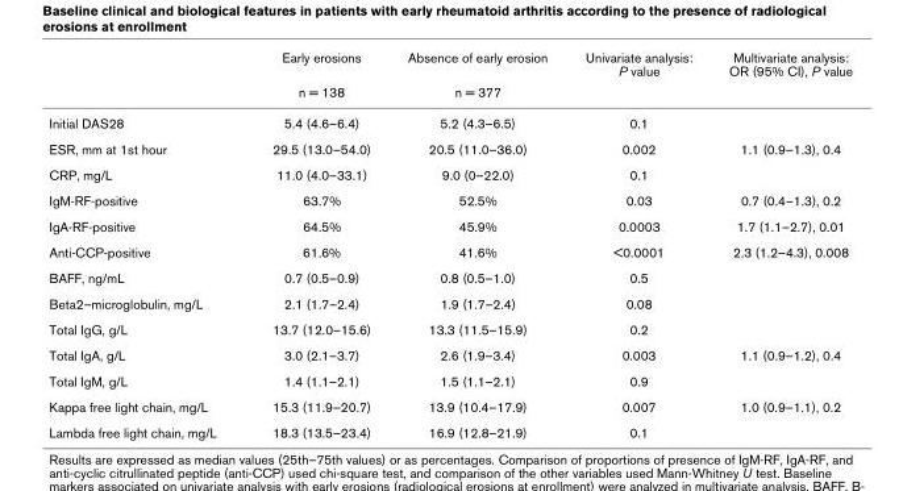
<table><thead><tr><td rowspan="2"></td><td rowspan="2">Early erosions n = 138</td><td rowspan="2">Absence of early erosion n = 377</td><td rowspan="2">Univariate analysis: P value</td><td rowspan="2">Multivariate analysis: OR (95% CI), P value</td></tr><tr></tr></thead><tbody><tr><td>Initial DAS28</td><td>5.4 (4.6–6.4)</td><td>5.2 (4.3–6.5)</td><td>0.1</td><td></td></tr><tr><td>ESR, mm at 1st hour</td><td>29.5 (13.0–54.0)</td><td>20.5 (11.0–36.0)</td><td>0.002</td><td>1.1 (0.9–1.3), 0.4</td></tr><tr><td>CRP, mg/L</td><td>11.0 (4.0–33.1)</td><td>9.0 (0–22.0)</td><td>0.1</td><td></td></tr><tr><td>IgM-RF-positive</td><td>63.7%</td><td>52.5%</td><td>0.03</td><td>0.7 (0.4–1.3), 0.2</td></tr><tr><td>IgA-RF-positive</td><td>64.5%</td><td>45.9%</td><td>0.0003</td><td>1.7 (1.1–2.7), 0.01</td></tr><tr><td>Anti-CCP-positive</td><td>61.6%</td><td>41.6%</td><td>&lt;0.0001</td><td>2.3 (1.2–4.3), 0.008</td></tr><tr><td>BAFF, ng/mL</td><td>0.7 (0.5–0.9)</td><td>0.8 (0.5–1.0)</td><td>0.5</td><td></td></tr><tr><td>Beta2–microglobulin, mg/L</td><td>2.1 (1.7–2.4)</td><td>1.9 (1.7–2.4)</td><td>0.08</td><td></td></tr><tr><td>Total IgG, g/L</td><td>13.7 (12.0–15.6)</td><td>13.3 (11.5–15.9)</td><td>0.2</td><td></td></tr><tr><td>Total IgA, g/L</td><td>3.0 (2.1–3.7)</td><td>2.6 (1.9–3.4)</td><td>0.003</td><td>1.1 (0.9–1.2), 0.4</td></tr><tr><td>Total IgM, g/L</td><td>1.4 (1.1–2.1)</td><td>1.5 (1.1–2.1)</td><td>0.9</td><td></td></tr><tr><td>Kappa free light chain, mg/L</td><td>15.3 (11.9–20.7)</td><td>13.9 (10.4–17.9)</td><td>0.007</td><td>1.0 (0.9–1.1), 0.2</td></tr><tr><td>Lambda free light chain, mg/L</td><td>18.3 (13.5–23.4)</td><td>16.9 (12.8–21.9)</td><td>0.1</td><td></td></tr></tbody></table>